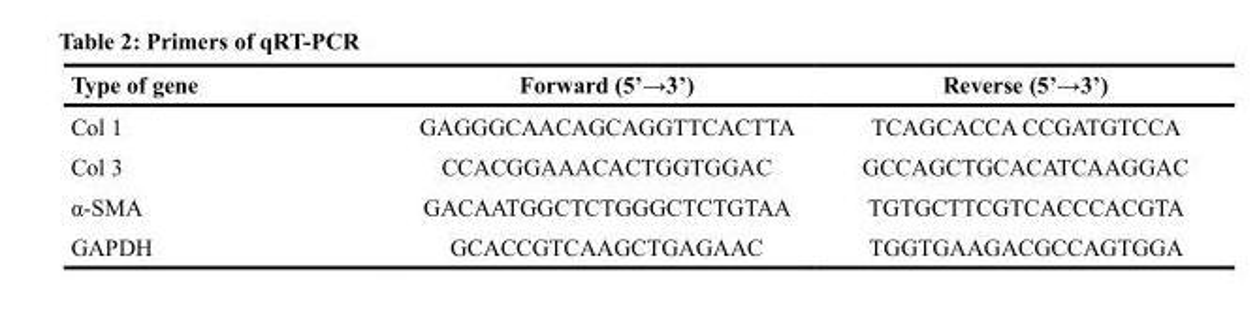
<table><thead><tr><td>Type of gene</td><td>Forward (5’→3’)</td><td>Reverse (5’→3’)</td></tr></thead><tbody><tr><td>Col 1</td><td>GAGGGCAACAGCAGGTTCACTTA</td><td>TCAGCACCA CCGATGTCCA</td></tr><tr><td>Col 3</td><td>CCACGGAAACACTGGTGGAC</td><td>GCCAGCTGCACATCAAGGAC</td></tr><tr><td>α-SMA</td><td>GACAATGGCTCTGGGCTCTGTAA</td><td>TGTGCTTCGTCACCCACGTA</td></tr><tr><td>GAPDH</td><td>GCACCGTCAAGCTGAGAAC</td><td>TGGTGAAGACGCCAGTGGA</td></tr></tbody></table>